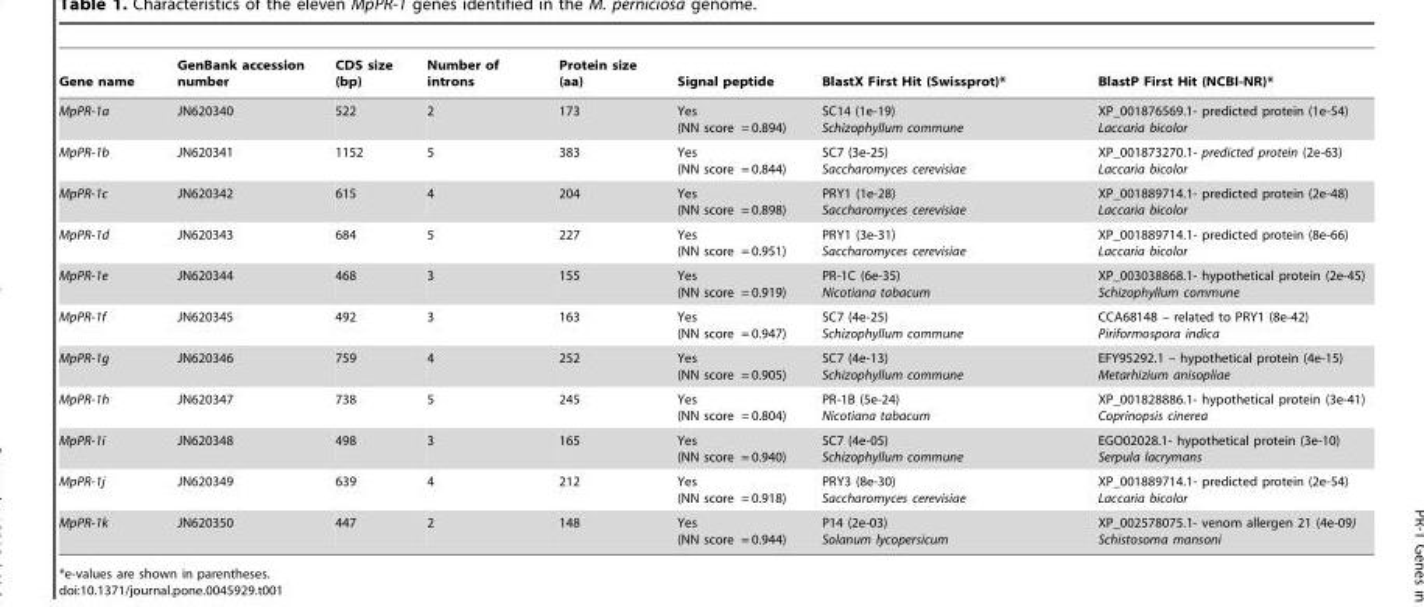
<table><thead><tr><td>Gene name</td><td>GenBank accession number</td><td>CDS size (bp)</td><td>Number of introns</td><td>Protein size (aa)</td><td>Signal peptide</td><td>BlastX First Hit (Swissprot)*</td><td>BlastP First Hit (NCBI-NR)*</td></tr></thead><tbody><tr><td>MpPR-1a</td><td>JN620340</td><td>522</td><td>2</td><td>173</td><td>Yes (NN score = 0.894)</td><td>SC14 (1e-19) Schizophyllum commune</td><td>XP_001876569.1- predicted protein (1e-54) Laccaria bicolor</td></tr><tr><td>MpPR-1b</td><td>JN620341</td><td>1152</td><td>5</td><td>383</td><td>Yes (NN score = 0.844)</td><td>SC7 (3e-25) Saccharomyces cerevisiae</td><td>XP_001873270.1- predicted protein (2e-63) Laccaria bicolor</td></tr><tr><td>MpPR-1c</td><td>JN620342</td><td>615</td><td>4</td><td>204</td><td>Yes (NN score = 0.898)</td><td>PRY1 (1e-28) Saccharomyces cerevisiae</td><td>XP_001889714.1- predicted protein (2e-48) Laccaria bicolor</td></tr><tr><td>MpPR-1d</td><td>JN620343</td><td>684</td><td>5</td><td>227</td><td>Yes (NN score = 0.951)</td><td>PRY1 (3e-31) Saccharomyces cerevisiae</td><td>XP_001889714.1- predicted protein (8e-66) Laccaria bicolor</td></tr><tr><td>MpPR-1e</td><td>JN620344</td><td>468</td><td>3</td><td>155</td><td>Yes (NN score = 0.919)</td><td>PR-1C (6e-35) Nicotiana tabacum</td><td>XP_003038868.1- hypothetical protein (2e-45) Schizophyllum commune</td></tr><tr><td>MpPR-1f</td><td>JN620345</td><td>492</td><td>3</td><td>163</td><td>Yes (NN score = 0.947)</td><td>SC7 (4e-25) Schizophyllum commune</td><td>CCA68148 – related to PRY1 (8e-42) Piriformospora indica</td></tr><tr><td>MpPR-1g</td><td>JN620346</td><td>759</td><td>4</td><td>252</td><td>Yes (NN score = 0.905)</td><td>SC7 (4e-13) Schizophyllum commune</td><td>EFY95292.1 – hypothetical protein (4e-15) Metarhizium anisopliae</td></tr><tr><td>MpPR-1h</td><td>JN620347</td><td>738</td><td>5</td><td>245</td><td>Yes (NN score = 0.804)</td><td>PR-1B (5e-24) Nicotiana tabacum</td><td>XP_001828886.1- hypothetical protein (3e-41) Coprinopsis cinerea</td></tr><tr><td>MpPR-1i</td><td>JN620348</td><td>498</td><td>3</td><td>165</td><td>Yes (NN score = 0.940)</td><td>SC7 (4e-05) Schizophyllum commune</td><td>EGO02028.1- hypothetical protein (3e-10) Serpula lacrymans</td></tr><tr><td>MpPR-1j</td><td>JN620349</td><td>639</td><td>4</td><td>212</td><td>Yes (NN score = 0.918)</td><td>PRY3 (8e-30) Saccharomyces cerevisiae</td><td>XP_001889714.1- predicted protein (2e-54) Laccaria bicolor</td></tr><tr><td>MpPR-1k</td><td>JN620350</td><td>447</td><td>2</td><td>148</td><td>Yes (NN score = 0.944)</td><td>P14 (2e-03) Solanum lycopersicum</td><td>XP_002578075.1- venom allergen 21 (4e-09) Schistosoma mansoni</td></tr></tbody></table>